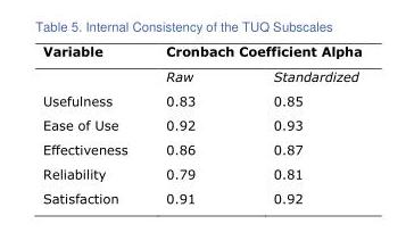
<table><thead><tr><td rowspan="2">Variable</td><td colspan="2">Cronbach Coefficient Alpha</td></tr><tr><td>Raw</td><td>Standardized</td></tr></thead><tbody><tr><td>Usefulness</td><td>0.83</td><td>0.85</td></tr><tr><td>Ease of Use</td><td>0.92</td><td>0.93</td></tr><tr><td>Effectiveness</td><td>0.86</td><td>0.87</td></tr><tr><td>Reliability</td><td>0.79</td><td>0.81</td></tr><tr><td>Satisfaction</td><td>0.91</td><td>0.92</td></tr></tbody></table>